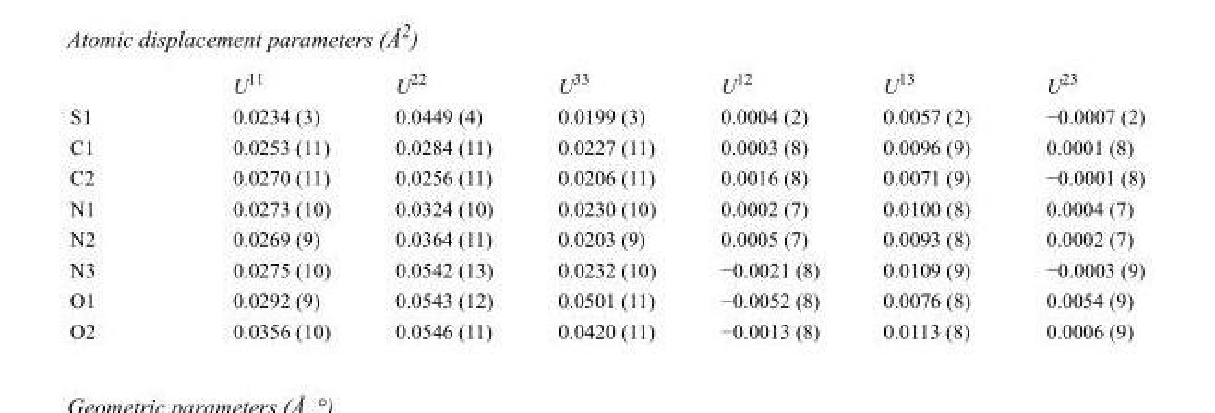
<table><thead><tr><td></td><td>U<sup>11</sup></td><td>U<sup>22</sup></td><td>U<sup>33</sup></td><td>U<sup>12</sup></td><td>U<sup>13</sup></td><td>U<sup>23</sup></td></tr></thead><tbody><tr><td>S1</td><td>0.0234 (3)</td><td>0.0449 (4)</td><td>0.0199 (3)</td><td>0.0004 (2)</td><td>0.0057 (2)</td><td>−0.0007 (2)</td></tr><tr><td>C1</td><td>0.0253 (11)</td><td>0.0284 (11)</td><td>0.0227 (11)</td><td>0.0003 (8)</td><td>0.0096 (9)</td><td>0.0001 (8)</td></tr><tr><td>C2</td><td>0.0270 (11)</td><td>0.0256 (11)</td><td>0.0206 (11)</td><td>0.0016 (8)</td><td>0.0071 (9)</td><td>−0.0001 (8)</td></tr><tr><td>N1</td><td>0.0273 (10)</td><td>0.0324 (10)</td><td>0.0230 (10)</td><td>0.0002 (7)</td><td>0.0100 (8)</td><td>0.0004 (7)</td></tr><tr><td>N2</td><td>0.0269 (9)</td><td>0.0364 (11)</td><td>0.0203 (9)</td><td>0.0005 (7)</td><td>0.0093 (8)</td><td>0.0002 (7)</td></tr><tr><td>N3</td><td>0.0275 (10)</td><td>0.0542 (13)</td><td>0.0232 (10)</td><td>−0.0021 (8)</td><td>0.0109 (9)</td><td>−0.0003 (9)</td></tr><tr><td>O1</td><td>0.0292 (9)</td><td>0.0543 (12)</td><td>0.0501 (11)</td><td>−0.0052 (8)</td><td>0.0076 (8)</td><td>0.0054 (9)</td></tr><tr><td>O2</td><td>0.0356 (10)</td><td>0.0546 (11)</td><td>0.0420 (11)</td><td>−0.0013 (8)</td><td>0.0113 (8)</td><td>0.0006 (9)</td></tr></tbody></table>